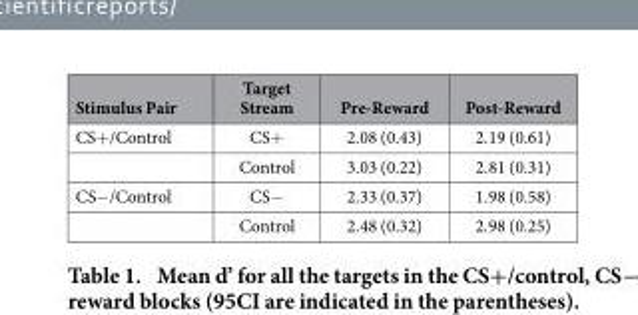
<table><thead><tr><td>Stimulus Pair</td><td>Target Stream</td><td>Pre-Reward</td><td>Post-Reward</td></tr></thead><tbody><tr><td rowspan="2">CS+ /Control</td><td>CS+</td><td>2.08 (0.43)</td><td>2.19 (0.61)</td></tr><tr><td>Control</td><td>3.03 (0.22)</td><td>2.81 (0.31)</td></tr><tr><td rowspan="2">CS− /Control</td><td>CS−</td><td>2.33 (0.37)</td><td>1.98 (0.58)</td></tr><tr><td>Control</td><td>2.48 (0.32)</td><td>2.98 (0.25)</td></tr></tbody></table>